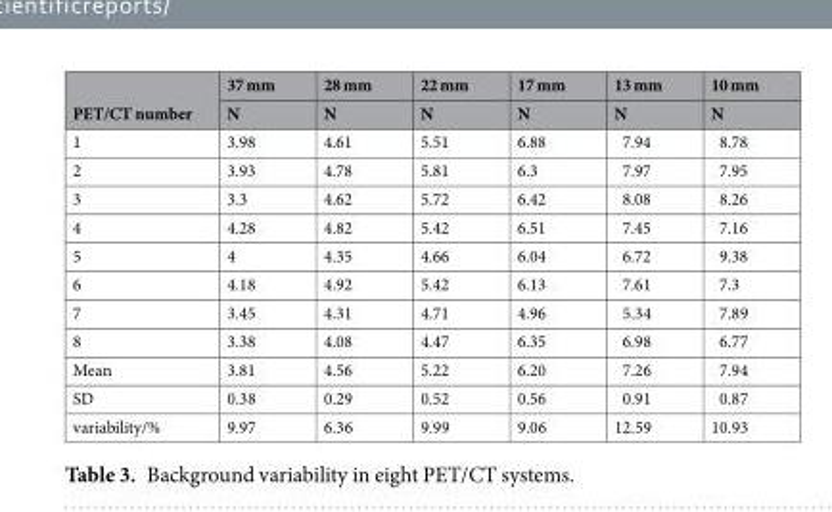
<table><thead><tr><td rowspan="2">PET/CT number</td><td rowspan="2">37 mm N</td><td rowspan="2">28 mm N</td><td rowspan="2">22 mm N</td><td rowspan="2">17 mm N</td><td rowspan="2">13 mm N</td><td rowspan="2">10 mm N</td></tr><tr></tr></thead><tbody><tr><td>1</td><td>3.98</td><td>4.61</td><td>5.51</td><td>6.88</td><td>7.94</td><td>8.78</td></tr><tr><td>2</td><td>3.93</td><td>4.78</td><td>5.81</td><td>6.3</td><td>7.97</td><td>7.95</td></tr><tr><td>3</td><td>3.3</td><td>4.62</td><td>5.72</td><td>6.42</td><td>8.08</td><td>8.26</td></tr><tr><td>4</td><td>4.28</td><td>4.82</td><td>5.42</td><td>6.51</td><td>7.45</td><td>7.16</td></tr><tr><td>5</td><td>4</td><td>4.35</td><td>4.66</td><td>6.04</td><td>6.72</td><td>9.38</td></tr><tr><td>6</td><td>4.18</td><td>4.92</td><td>5.42</td><td>6.13</td><td>7.61</td><td>7.3</td></tr><tr><td>7</td><td>3.45</td><td>4.31</td><td>4.71</td><td>4.96</td><td>5.34</td><td>7.89</td></tr><tr><td>8</td><td>3.38</td><td>4.08</td><td>4.47</td><td>6.35</td><td>6.98</td><td>6.77</td></tr><tr><td>Mean</td><td>3.81</td><td>4.56</td><td>5.22</td><td>6.20</td><td>7.26</td><td>7.94</td></tr><tr><td>SD</td><td>0.38</td><td>0.29</td><td>0.52</td><td>0.56</td><td>0.91</td><td>0.87</td></tr><tr><td>variability/%</td><td>9.97</td><td>6.36</td><td>9.99</td><td>9.06</td><td>12.59</td><td>10.93</td></tr></tbody></table>